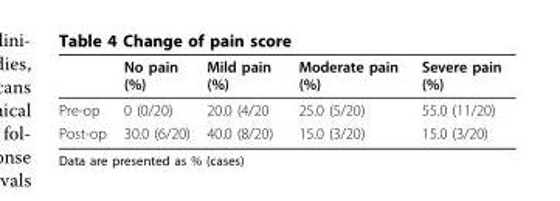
<table><thead><tr><td></td><td>No pain (%)</td><td>Mild pain (%)</td><td>Moderate pain (%)</td><td>Severe pain (%)</td></tr></thead><tbody><tr><td>Pre-op</td><td>0 (0/20)</td><td>20.0 (4/20</td><td>25.0 (5/20)</td><td>55.0 (11/20)</td></tr><tr><td>Post-op</td><td>30.0 (6/20)</td><td>40.0 (8/20)</td><td>15.0 (3/20)</td><td>15.0 (3/20)</td></tr></tbody></table>